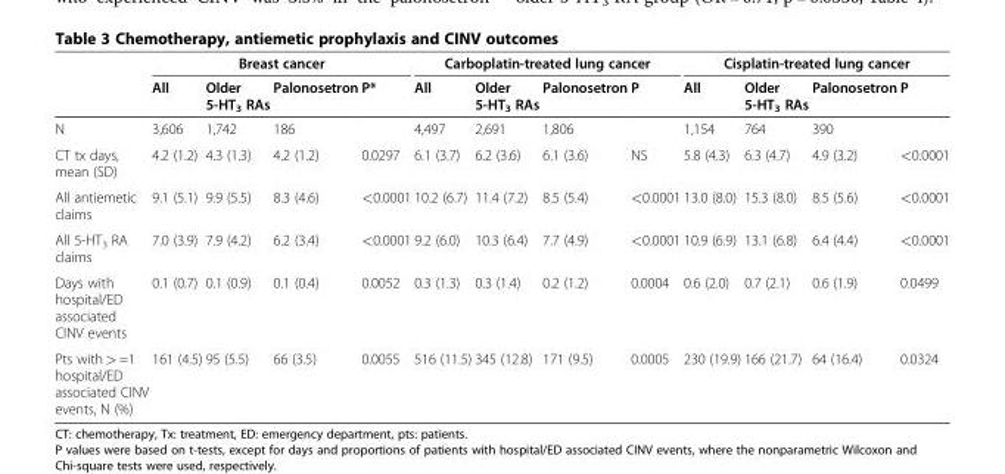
<table><thead><tr><td rowspan="2"></td><td colspan="4">Breast cancer</td><td colspan="4">Carboplatin-treated lung cancer</td><td colspan="4">Cisplatin-treated lung cancer</td></tr><tr><td>All</td><td>Older 5-HT<sub>3</sub> RAs</td><td>Palonosetron</td><td>P*</td><td>All</td><td>Older 5-HT<sub>3</sub> RAs</td><td>Palonosetron</td><td>P</td><td>All</td><td>Older 5-HT<sub>3</sub> RAs</td><td>Palonosetron</td><td>P</td></tr></thead><tbody><tr><td>N</td><td>3,606</td><td>1,742</td><td>186</td><td></td><td>4,497</td><td>2,691</td><td>1,806</td><td></td><td>1,154</td><td>764</td><td>390</td><td></td></tr><tr><td>CT tx days, mean (SD)</td><td>4.2 (1.2)</td><td>4.3 (1.3)</td><td>4.2 (1.2)</td><td>0.0297</td><td>6.1 (3.7)</td><td>6.2 (3.6)</td><td>6.1 (3.6)</td><td>NS</td><td>5.8 (4.3)</td><td>6.3 (4.7)</td><td>4.9 (3.2)</td><td>&lt;0.0001</td></tr><tr><td>All antiemetic claims</td><td>9.1 (5.1)</td><td>9.9 (5.5)</td><td>8.3 (4.6)</td><td>&lt;0.0001</td><td>10.2 (6.7)</td><td>11.4 (7.2)</td><td>8.5 (5.4)</td><td>&lt;0.0001</td><td>13.0 (8.0)</td><td>15.3 (8.0)</td><td>8.5 (5.6)</td><td>&lt;0.0001</td></tr><tr><td>All 5-HT<sub>3</sub> RA claims</td><td>7.0 (3.9)</td><td>7.9 (4.2)</td><td>6.2 (3.4)</td><td>&lt;0.0001</td><td>9.2 (6.0)</td><td>10.3 (6.4)</td><td>7.7 (4.9)</td><td>&lt;0.0001</td><td>10.9 (6.9)</td><td>13.1 (6.8)</td><td>6.4 (4.4)</td><td>&lt;0.0001</td></tr><tr><td>Days with hospital/ED associated CINV events</td><td>0.1 (0.7)</td><td>0.1 (0.9)</td><td>0.1 (0.4)</td><td>0.0052</td><td>0.3 (1.3)</td><td>0.3 (1.4)</td><td>0.2 (1.2)</td><td>0.0004</td><td>0.6 (2.0)</td><td>0.7 (2.1)</td><td>0.6 (1.9)</td><td>0.0499</td></tr><tr><td>Pts with &gt; =1 hospital/ED associated CINV events, N (%)</td><td>161 (4.5)</td><td>95 (5.5)</td><td>66 (3.5)</td><td>0.0055</td><td>516 (11.5)</td><td>345 (12.8)</td><td>171 (9.5)</td><td>0.0005</td><td>230 (19.9)</td><td>166 (21.7)</td><td>64 (16.4)</td><td>0.0324</td></tr></tbody></table>